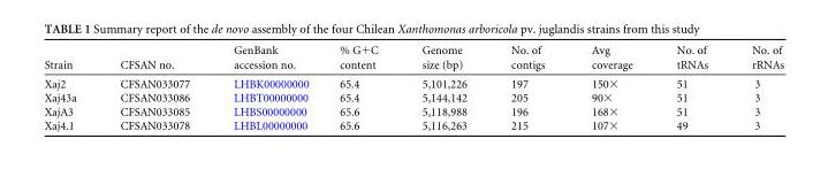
<table><thead><tr><td>Strain</td><td>CFSAN no.</td><td>GenBank accession no.</td><td>% G+C content</td><td>Genome size (bp)</td><td>No. of contigs</td><td>Avg coverage</td><td>No. of tRNAs</td><td>No. of rRNAs</td></tr></thead><tbody><tr><td>Xaj2</td><td>CFSAN033077</td><td>LHBK00000000</td><td>65.4</td><td>5,101,226</td><td>197</td><td>150×</td><td>51</td><td>3</td></tr><tr><td>Xaj43a</td><td>CFSAN033086</td><td>LHBT00000000</td><td>65.4</td><td>5,144,142</td><td>205</td><td>90×</td><td>51</td><td>3</td></tr><tr><td>XajA3</td><td>CFSAN033085</td><td>LHBS00000000</td><td>65.6</td><td>5,118,988</td><td>196</td><td>168×</td><td>51</td><td>3</td></tr><tr><td>Xaj4.1</td><td>CFSAN033078</td><td>LHBL00000000</td><td>65.6</td><td>5,116,263</td><td>215</td><td>107×</td><td>49</td><td>3</td></tr></tbody></table>